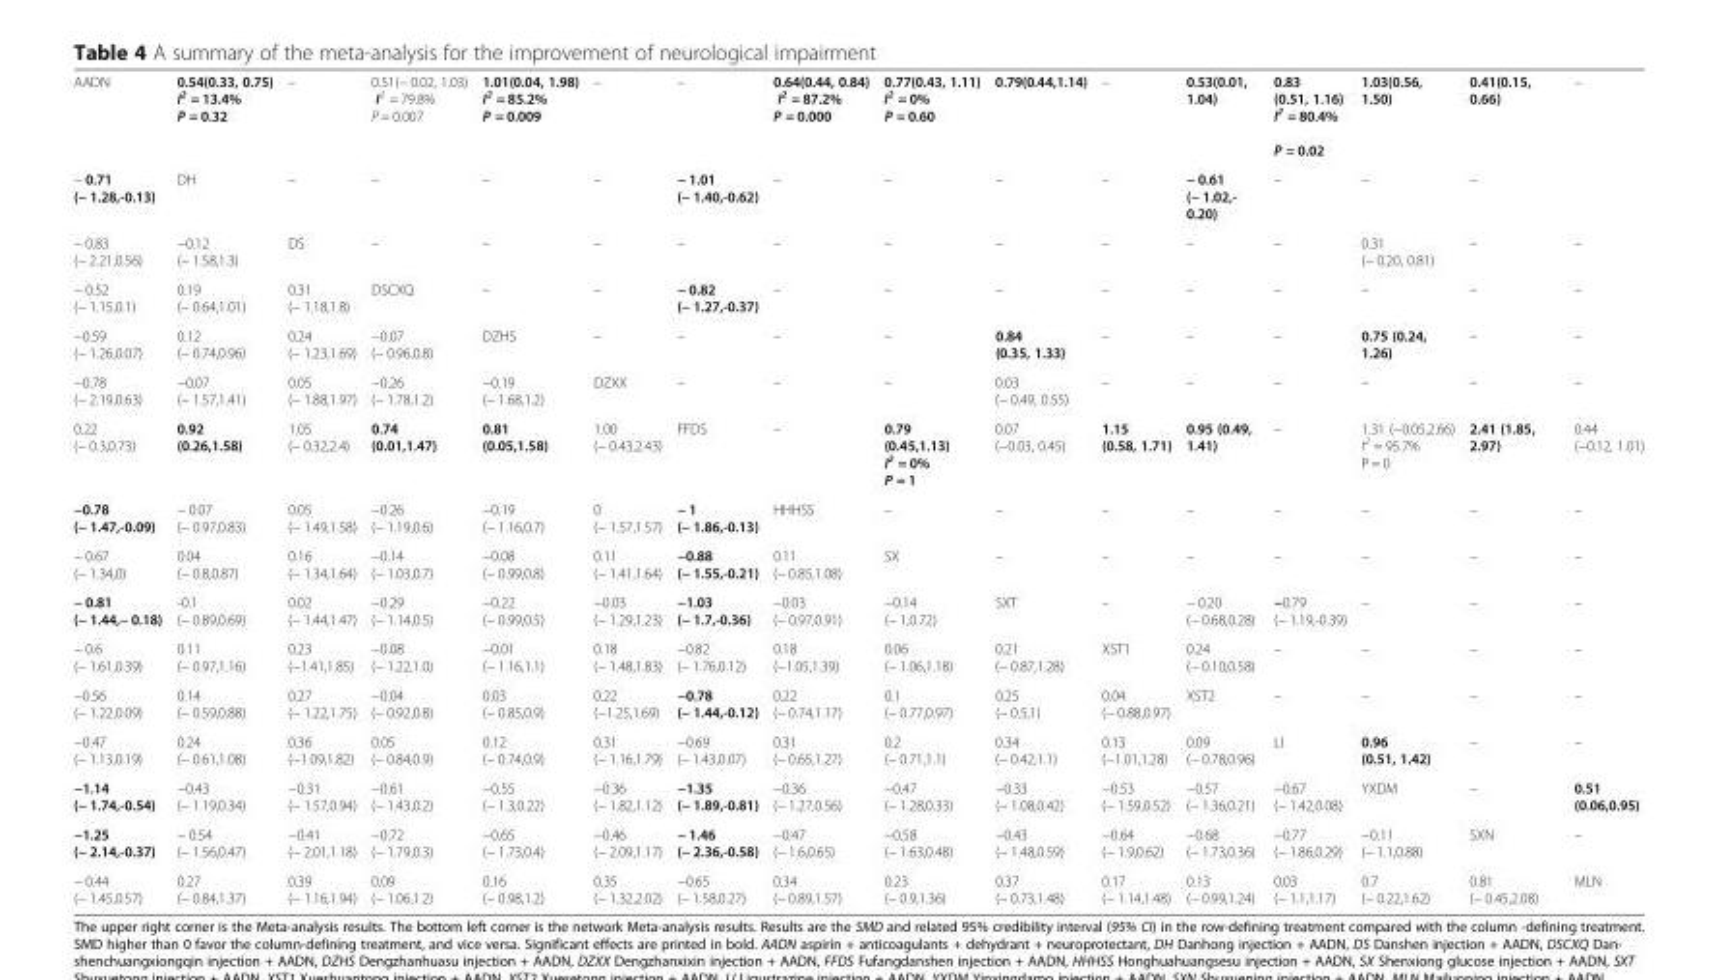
<table><tbody><tr><td>AADN</td><td>0.54(0.33, 0.75) I<sup>2</sup> = 13.4% P = 0.32</td><td>–</td><td>0.51(− 0.02, 1.03) I<sup>2</sup> = 79.8% P = 0.007</td><td>1.01(0.04, 1.98) I<sup>2</sup> = 85.2% P = 0.009</td><td>–</td><td>–</td><td>0.64(0.44, 0.84) I<sup>2</sup> = 87.2% P = 0.000</td><td>0.77(0.43, 1.11) I<sup>2</sup> = 0% P = 0.60</td><td>0.79(0.44,1.14)</td><td>–</td><td>0.53(0.01, 1.04)</td><td>0.83 (0.51, 1.16) I<sup>2</sup> = 80.4% P = 0.02</td><td>1.03(0.56, 1.50)</td><td>0.41(0.15, 0.66)</td><td>–</td></tr><tr><td>− 0.71 (− 1.28,-0.13)</td><td>DH</td><td>–</td><td>–</td><td>–</td><td>–</td><td>− 1.01 (− 1.40,-0.62)</td><td>–</td><td>–</td><td>–</td><td>–</td><td>− 0.61 (− 1.02,- 0.20)</td><td>–</td><td>–</td><td>–</td><td></td></tr><tr><td>− 0.83 (− 2.21,0.56)</td><td>−0.12 (− 1.58,1.3)</td><td>DS</td><td>–</td><td>–</td><td>–</td><td>–</td><td>–</td><td>–</td><td>–</td><td>–</td><td>–</td><td>–</td><td>0.31 (− 0.20, 0.81)</td><td>–</td><td>–</td></tr><tr><td>− 0.52 (− 1.15,0.1)</td><td>0.19 (− 0.64,1.01)</td><td>0.31 (− 1.18,1.8)</td><td>DSCXQ</td><td>–</td><td>–</td><td>− 0.82 (− 1.27,-0.37)</td><td>–</td><td>–</td><td>–</td><td>–</td><td>–</td><td>–</td><td>–</td><td>–</td><td>–</td></tr><tr><td>−0.59 (− 1.26,0.07)</td><td>0.12 (− 0.74,0.96)</td><td>0.24 (− 1.23,1.69)</td><td>−0.07 (− 0.96,0.8)</td><td>DZHS</td><td>–</td><td>–</td><td>–</td><td>–</td><td>0.84 (0.35, 1.33)</td><td>–</td><td>–</td><td>–</td><td>0.75 (0.24, 1.26)</td><td>–</td><td>–</td></tr><tr><td>−0.78 (− 2.19,0.63)</td><td>−0.07 (− 1.57,1.41)</td><td>0.05 (− 1.88,1.97)</td><td>−0.26 (− 1.78,1.2)</td><td>−0.19 (− 1.68,1.2)</td><td>DZXX</td><td>–</td><td>–</td><td>–</td><td>0.03 (− 0.49, 0.55)</td><td>–</td><td>–</td><td>–</td><td>–</td><td>–</td><td>–</td></tr><tr><td>0.22 (− 0.3,0.73)</td><td>0.92 (0.26,1.58)</td><td>1.05 (− 0.32,2.4)</td><td>0.74 (0.01,1.47)</td><td>0.81 (0.05,1.58)</td><td>1.00 (− 0.43,2.43)</td><td>FFDS</td><td>–</td><td>0.79 (0.45,1.13) I<sup>2</sup> = 0% P = 1</td><td>0.07 (−0.03, 0.45)</td><td>1.15 (0.58, 1.71)</td><td>0.95 (0.49, 1.41)</td><td>–</td><td>1.31 (−0.05,2.66) I<sup>2</sup> = 95.7% P = 0</td><td>2.41 (1.85, 2.97)</td><td>0.44 (−0.12, 1.01)</td></tr><tr><td>−0.78 (− 1.47,-0.09)</td><td>− 0.07 (− 0.97,0.83)</td><td>0.05 (− 1.49,1.58)</td><td>−0.26 (− 1.19,0.6)</td><td>−0.19 (− 1.16,0.7)</td><td>0 (− 1.57,1.57)</td><td>− 1 (− 1.86,-0.13)</td><td>HHHSS</td><td>–</td><td>–</td><td>–</td><td>–</td><td>–</td><td>–</td><td>–</td><td>–</td></tr><tr><td>− 0.67 (− 1.34,0)</td><td>0.04 (− 0.8,0.87)</td><td>0.16 (− 1.34,1.64)</td><td>−0.14 (− 1.03,0.7)</td><td>−0.08 (− 0.99,0.8)</td><td>0.11 (− 1.41,1.64)</td><td>−0.88 (− 1.55,-0.21)</td><td>0.11 (− 0.85,1.08)</td><td>SX</td><td>–</td><td>–</td><td>–</td><td>–</td><td>–</td><td>–</td><td>–</td></tr><tr><td>− 0.81 (− 1.44,− 0.18)</td><td>-0.1 (− 0.89,0.69)</td><td>0.02 (− 1.44,1.47)</td><td>−0.29 (− 1.14,0.5)</td><td>−0.22 (− 0.99,0.5)</td><td>−0.03 (− 1.29,1.23)</td><td>−1.03 (− 1.7,-0.36)</td><td>−0.03 (− 0.97,0.91)</td><td>−0.14 (− 1,0.72)</td><td>SXT</td><td>–</td><td>− 0.20 (− 0.68,0.28)</td><td>−0.79 (− 1.19,-0.39)</td><td>–</td><td>–</td><td>–</td></tr><tr><td>− 0.6 (− 1.61,0.39)</td><td>0.11 (− 0.97,1.16)</td><td>0.23 (−1.41,1.85)</td><td>−0.08 (− 1.22,1.0)</td><td>−0.01 (− 1.16,1.1)</td><td>0.18 (− 1.48,1.83)</td><td>−0.82 (− 1.76,0.12)</td><td>0.18 (−1.05,1.39)</td><td>0.06 (− 1.06,1.18)</td><td>0.21 (− 0.87,1.28)</td><td>XST1</td><td>0.24 (− 0.10,0.58)</td><td>–</td><td>–</td><td>–</td><td>–</td></tr><tr><td>−0.56 (− 1.22,0.09)</td><td>0.14 (− 0.59,0.88)</td><td>0.27 (− 1.22,1.75)</td><td>−0.04 (− 0.92,0.8)</td><td>0.03 (− 0.85,0.9)</td><td>0.22 (−1.25,1.69)</td><td>−0.78 (− 1.44,-0.12)</td><td>0.22 (− 0.74,1.17)</td><td>0.1 (− 0.77,0.97)</td><td>0.25 (− 0.5,1)</td><td>0.04 (− 0.88,0.97)</td><td>XST2</td><td>–</td><td>–</td><td>–</td><td>–</td></tr><tr><td>−0.47 (− 1.13,0.19)</td><td>0.24 (− 0.61,1.08)</td><td>0.36 (−1.09,1.82)</td><td>0.05 (− 0.84,0.9)</td><td>0.12 (− 0.74,0.9)</td><td>0.31 (− 1.16,1.79)</td><td>−0.69 (− 1.43,0.07)</td><td>0.31 (− 0.65,1.27)</td><td>0.2 (− 0.71,1.1)</td><td>0.34 (− 0.42,1.1)</td><td>0.13 (−1.01,1.28)</td><td>0.09 (− 0.78,0.96)</td><td>LI</td><td>0.96 (0.51, 1.42)</td><td>–</td><td>–</td></tr><tr><td>−1.14 (− 1.74,-0.54)</td><td>−0.43 (− 1.19,0.34)</td><td>−0.31 (− 1.57,0.94)</td><td>−0.61 (− 1.43,0.2)</td><td>−0.55 (− 1.3,0.22)</td><td>−0.36 (− 1.82,1.12)</td><td>−1.35 (− 1.89,-0.81)</td><td>−0.36 (− 1.27,0.56)</td><td>−0.47 (− 1.28,0.33)</td><td>−0.33 (− 1.08,0.42)</td><td>−0.53 (− 1.59,0.52)</td><td>−0.57 (− 1.36,0.21)</td><td>−0.67 (− 1.42,0.08)</td><td>YXDM</td><td>–</td><td>0.51 (0.06,0.95)</td></tr><tr><td>−1.25 (− 2.14,-0.37)</td><td>− 0.54 (− 1.56,0.47)</td><td>−0.41 (− 2.01,1.18)</td><td>−0.72 (− 1.79,0.3)</td><td>−0.65 (− 1.73,0.4)</td><td>−0.46 (− 2.09,1.17)</td><td>− 1.46 (− 2.36,-0.58)</td><td>−0.47 (− 1.6,0.65)</td><td>−0.58 (− 1.63,0.48)</td><td>−0.43 (− 1.48,0.59)</td><td>−0.64 (− 1.9,0.62)</td><td>−0.68 (− 1.73,0.36)</td><td>−0.77 (− 1.86,0.29)</td><td>−0.11 (− 1.1,0.88)</td><td>SXN</td><td>–</td></tr><tr><td>− 0.44 (− 1.45,0.57)</td><td>0.27 (− 0.84,1.37)</td><td>0.39 (− 1.16,1.94)</td><td>0.09 (− 1.06,1.2)</td><td>0.16 (− 0.98,1.2)</td><td>0.35 (− 1.32,2.02)</td><td>−0.65 (− 1.58,0.27)</td><td>0.34 (− 0.89,1.57)</td><td>0.23 (− 0.9,1.36)</td><td>0.37 (− 0.73,1.48)</td><td>0.17 (− 1.14,1.48)</td><td>0.13 (− 0.99,1.24)</td><td>0.03 (− 1.1,1.17)</td><td>0.7 (− 0.22,1.62)</td><td>0.81 (− 0.45,2.08)</td><td>MLN</td></tr></tbody></table>